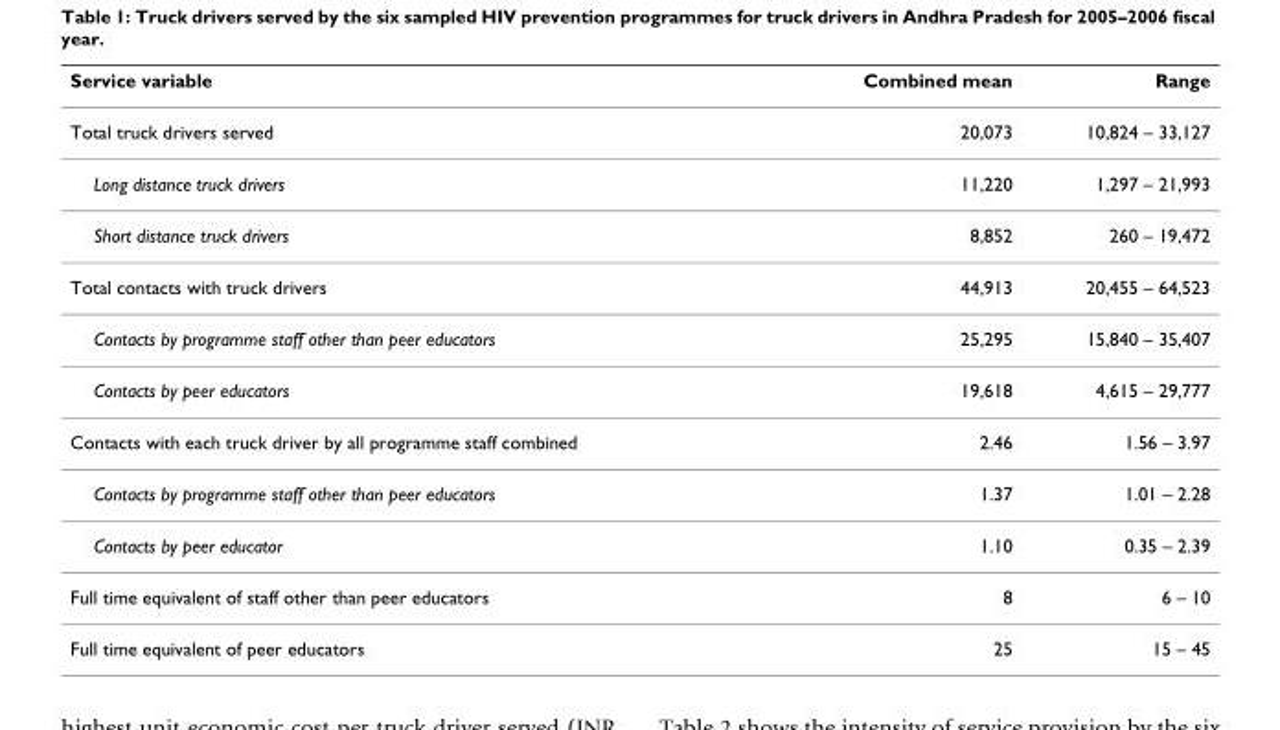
<table><thead><tr><td>Service variable</td><td>Combined mean</td><td>Range</td></tr></thead><tbody><tr><td>Total truck drivers served</td><td>20,073</td><td>10,824 – 33,127</td></tr><tr><td>Long distance truck drivers</td><td>11,220</td><td>1,297 – 21,993</td></tr><tr><td>Short distance truck drivers</td><td>8,852</td><td>260 – 19,472</td></tr><tr><td>Total contacts with truck drivers</td><td>44,913</td><td>20,455 – 64,523</td></tr><tr><td>Contacts by programme staff other than peer educators</td><td>25,295</td><td>15,840 – 35,407</td></tr><tr><td>Contacts by peer educators</td><td>19,618</td><td>4,615 – 29,777</td></tr><tr><td>Contacts with each truck driver by all programme staff combined</td><td>2.46</td><td>1.56 – 3.97</td></tr><tr><td>Contacts by programme staff other than peer educators</td><td>1.37</td><td>1.01 – 2.28</td></tr><tr><td>Contacts by peer educator</td><td>1.10</td><td>0.35 – 2.39</td></tr><tr><td>Full time equivalent of staff other than peer educators</td><td>8</td><td>6 – 10</td></tr><tr><td>Full time equivalent of peer educators</td><td>25</td><td>15 – 45</td></tr></tbody></table>